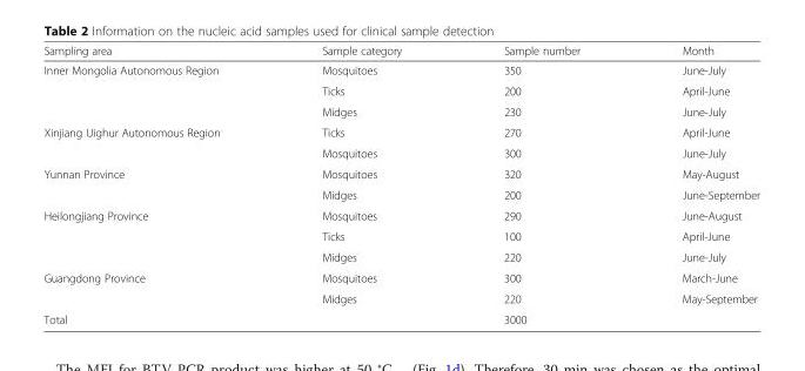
<table><thead><tr><td>Sampling area</td><td>Sample category</td><td>Sample number</td><td>Month</td></tr></thead><tbody><tr><td rowspan="3">Inner Mongolia Autonomous Region</td><td>Mosquitoes</td><td>350</td><td>June-July</td></tr><tr><td>Ticks</td><td>200</td><td>April-June</td></tr><tr><td>Midges</td><td>230</td><td>June-July</td></tr><tr><td rowspan="2">Xinjiang Uighur Autonomous Region</td><td>Ticks</td><td>270</td><td>April-June</td></tr><tr><td>Mosquitoes</td><td>300</td><td>June-July</td></tr><tr><td rowspan="2">Yunnan Province</td><td>Mosquitoes</td><td>320</td><td>May-August</td></tr><tr><td>Midges</td><td>200</td><td>June-September</td></tr><tr><td rowspan="3">Heilongjiang Province</td><td>Mosquitoes</td><td>290</td><td>June-August</td></tr><tr><td>Ticks</td><td>100</td><td>April-June</td></tr><tr><td>Midges</td><td>220</td><td>June-July</td></tr><tr><td rowspan="2">Guangdong Province</td><td>Mosquitoes</td><td>300</td><td>March-June</td></tr><tr><td>Midges</td><td>220</td><td>May-September</td></tr><tr><td>Total</td><td></td><td>3000</td><td></td></tr></tbody></table>